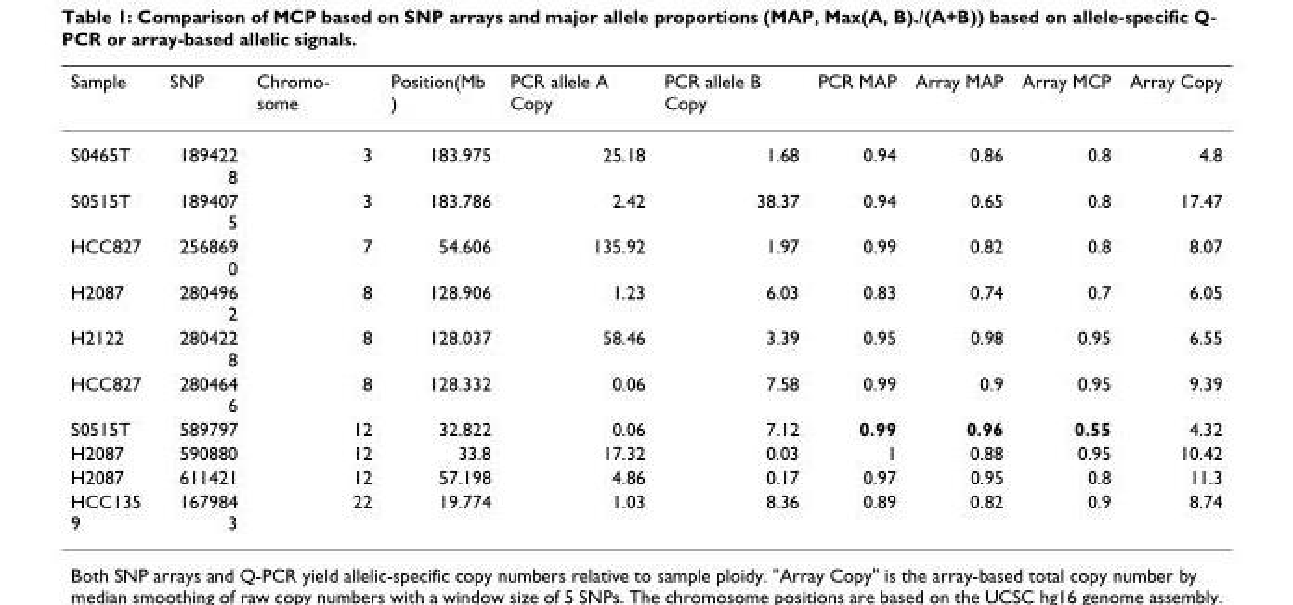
<table><thead><tr><td>Sample</td><td>SNP</td><td>Chromo- some</td><td>Position(Mb )</td><td>PCR allele A Copy</td><td>PCR allele B Copy</td><td>PCR MAP</td><td>Array MAP</td><td>Array MCP</td><td>Array Copy</td></tr></thead><tbody><tr><td>S0465T</td><td>189422 8</td><td>3</td><td>183.975</td><td>25.18</td><td>1.68</td><td>0.94</td><td>0.86</td><td>0.8</td><td>4.8</td></tr><tr><td>S0515T</td><td>189407 5</td><td>3</td><td>183.786</td><td>2.42</td><td>38.37</td><td>0.94</td><td>0.65</td><td>0.8</td><td>17.47</td></tr><tr><td>HCC827</td><td>256869 0</td><td>7</td><td>54.606</td><td>135.92</td><td>1.97</td><td>0.99</td><td>0.82</td><td>0.8</td><td>8.07</td></tr><tr><td>H2087</td><td>280496 2</td><td>8</td><td>128.906</td><td>1.23</td><td>6.03</td><td>0.83</td><td>0.74</td><td>0.7</td><td>6.05</td></tr><tr><td>H2122</td><td>280422 8</td><td>8</td><td>128.037</td><td>58.46</td><td>3.39</td><td>0.95</td><td>0.98</td><td>0.95</td><td>6.55</td></tr><tr><td>HCC827</td><td>280464 6</td><td>8</td><td>128.332</td><td>0.06</td><td>7.58</td><td>0.99</td><td>0.9</td><td>0.95</td><td>9.39</td></tr><tr><td>S0515T</td><td>589797</td><td>12</td><td>32.822</td><td>0.06</td><td>7.12</td><td>0.99</td><td>0.96</td><td>0.55</td><td>4.32</td></tr><tr><td>H2087</td><td>590880</td><td>12</td><td>33.8</td><td>17.32</td><td>0.03</td><td>1</td><td>0.88</td><td>0.95</td><td>10.42</td></tr><tr><td>H2087</td><td>611421</td><td>12</td><td>57.198</td><td>4.86</td><td>0.17</td><td>0.97</td><td>0.95</td><td>0.8</td><td>11.3</td></tr><tr><td>HCC135 9</td><td>167984 3</td><td>22</td><td>19.774</td><td>1.03</td><td>8.36</td><td>0.89</td><td>0.82</td><td>0.9</td><td>8.74</td></tr></tbody></table>